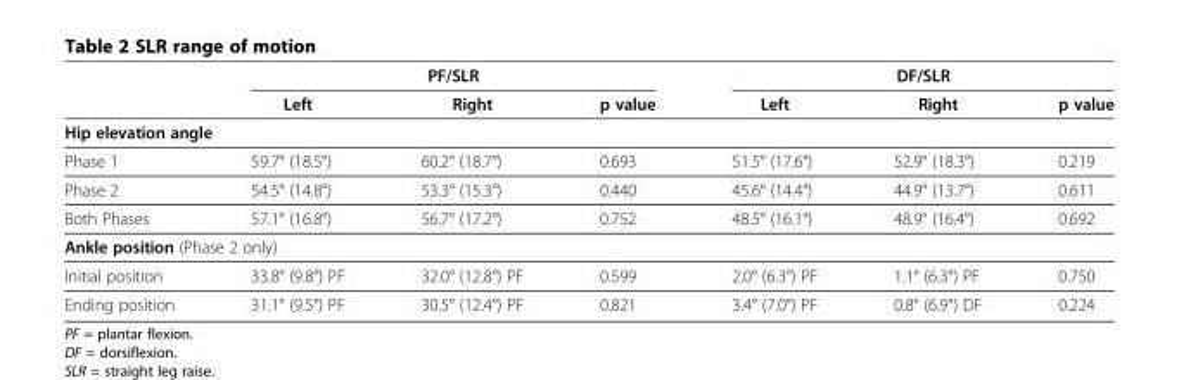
<table><thead><tr><td rowspan="2"></td><td colspan="3">PF/SLR</td><td colspan="3">DF/SLR</td></tr><tr><td>Left</td><td>Right</td><td>p value</td><td>Left</td><td>Right</td><td>p value</td></tr></thead><tbody><tr><td colspan="7">Hip elevation angle</td></tr><tr><td>Phase 1</td><td>59.7° (18.5°)</td><td>60.2° (18.7°)</td><td>0.693</td><td>51.5° (17.6°)</td><td>52.9° (18.3°)</td><td>0.219</td></tr><tr><td>Phase 2</td><td>54.5° (14.8°)</td><td>53.3° (15.3°)</td><td>0.440</td><td>45.6° (14.4°)</td><td>44.9° (13.7°)</td><td>0.611</td></tr><tr><td>Both Phases</td><td>57.1° (16.8°)</td><td>56.7° (17.2°)</td><td>0.752</td><td>48.5° (16.1°)</td><td>48.9° (16.4°)</td><td>0.692</td></tr><tr><td colspan="7">Ankle position (Phase 2 only)</td></tr><tr><td>Initial position</td><td>33.8° (9.8°) PF</td><td>32.0° (12.8°) PF</td><td>0.599</td><td>2.0° (6.3°) PF</td><td>1.1° (6.3°) PF</td><td>0.750</td></tr><tr><td>Ending position</td><td>31.1° (9.5°) PF</td><td>30.5° (12.4°) PF</td><td>0.821</td><td>3.4° (7.0°) PF</td><td>0.8° (6.9°) DF</td><td>0.224</td></tr></tbody></table>